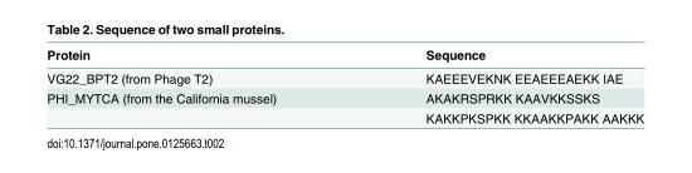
<table><thead><tr><td>Protein</td><td>Sequence</td></tr></thead><tbody><tr><td>VG22_BPT2 (from Phage T2)</td><td>KAEEEVEKNK EEAEEEAEKK IAE</td></tr><tr><td rowspan="2">PHI_MYTCA (from the California mussel)</td><td>AKAKRSPRKK KAAVKKSSKS</td></tr><tr><td>KAKKPKSPKK KKAAKKPAKK AAKKK</td></tr></tbody></table>